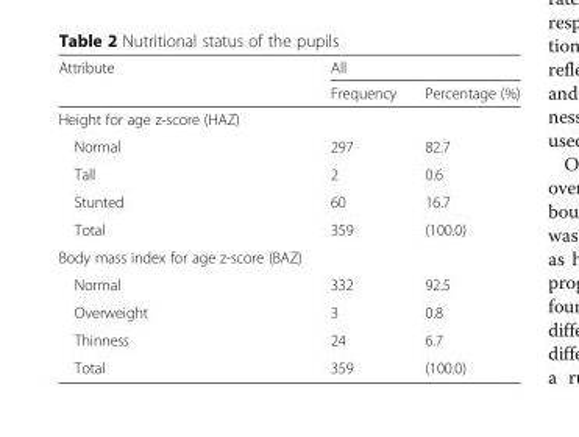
<table><thead><tr><td rowspan="2">Attribute</td><td colspan="2">All</td></tr><tr><td>Frequency</td><td>Percentage (%)</td></tr></thead><tbody><tr><td colspan="3">Height for age z-score (HAZ)</td></tr><tr><td>Normal</td><td>297</td><td>82.7</td></tr><tr><td>Tall</td><td>2</td><td>0.6</td></tr><tr><td>Stunted</td><td>60</td><td>16.7</td></tr><tr><td>Total</td><td>359</td><td>(100.0)</td></tr><tr><td colspan="3">Body mass index for age z-score (BAZ)</td></tr><tr><td>Normal</td><td>332</td><td>92.5</td></tr><tr><td>Overweight</td><td>3</td><td>0.8</td></tr><tr><td>Thinness</td><td>24</td><td>6.7</td></tr><tr><td>Total</td><td>359</td><td>(100.0)</td></tr></tbody></table>